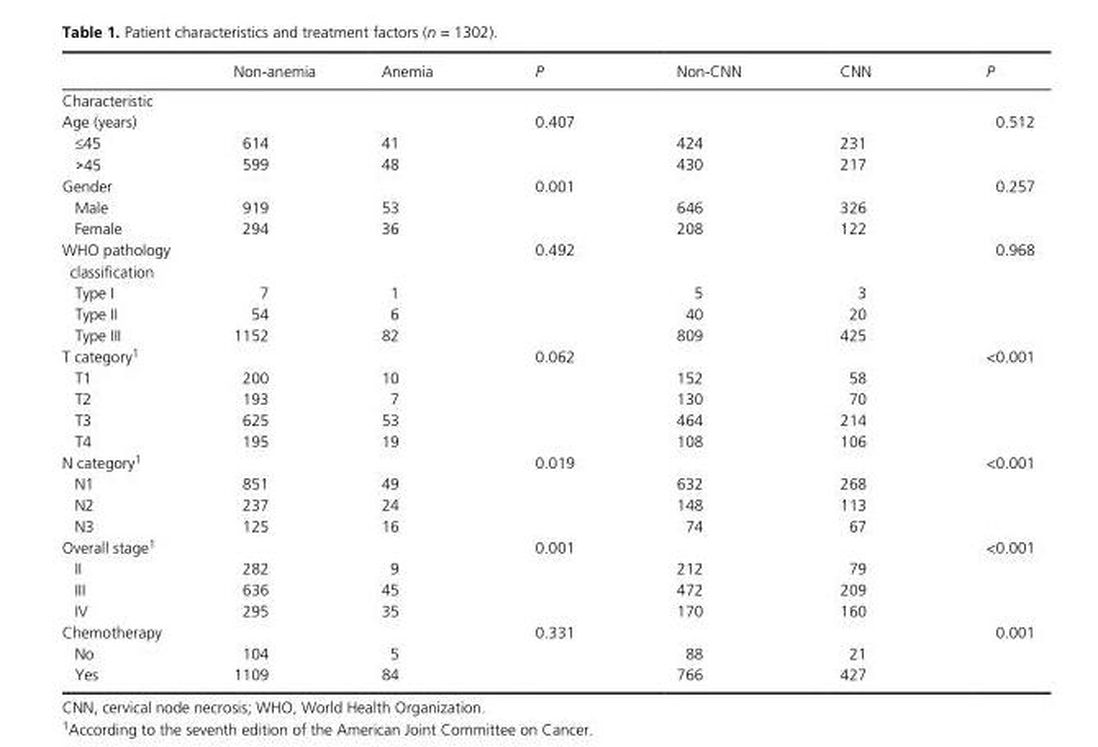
<table><thead><tr><td></td><td>Non- anemia</td><td>Anemia</td><td>P</td><td>Non- CNN</td><td>CNN</td><td>P</td></tr></thead><tbody><tr><td colspan="7">Characteristic</td></tr><tr><td>Age (years)</td><td></td><td></td><td>0.407</td><td></td><td></td><td>0.512</td></tr><tr><td>≤45</td><td>614</td><td>41</td><td></td><td>424</td><td>231</td><td></td></tr><tr><td>˃45</td><td>599</td><td>48</td><td></td><td>430</td><td>217</td><td></td></tr><tr><td>Gender</td><td></td><td></td><td>0.001</td><td></td><td></td><td>0.257</td></tr><tr><td>Male</td><td>919</td><td>53</td><td></td><td>646</td><td>326</td><td></td></tr><tr><td>Female</td><td>294</td><td>36</td><td></td><td>208</td><td>122</td><td></td></tr><tr><td>WHO pathology classification</td><td></td><td></td><td>0.492</td><td></td><td></td><td>0.968</td></tr><tr><td>Type I</td><td>7</td><td>1</td><td></td><td>5</td><td>3</td><td></td></tr><tr><td>Type II</td><td>54</td><td>6</td><td></td><td>40</td><td>20</td><td></td></tr><tr><td>Type III</td><td>1152</td><td>82</td><td></td><td>809</td><td>425</td><td></td></tr><tr><td>T category1</td><td></td><td></td><td>0.062</td><td></td><td></td><td>&lt;0.001</td></tr><tr><td>T1</td><td>200</td><td>10</td><td></td><td>152</td><td>58</td><td></td></tr><tr><td>T2</td><td>193</td><td>7</td><td></td><td>130</td><td>70</td><td></td></tr><tr><td>T3</td><td>625</td><td>53</td><td></td><td>464</td><td>214</td><td></td></tr><tr><td>T4</td><td>195</td><td>19</td><td></td><td>108</td><td>106</td><td></td></tr><tr><td>N category1</td><td></td><td></td><td>0.019</td><td></td><td></td><td>&lt;0.001</td></tr><tr><td>N1</td><td>851</td><td>49</td><td></td><td>632</td><td>268</td><td></td></tr><tr><td>N2</td><td>237</td><td>24</td><td></td><td>148</td><td>113</td><td></td></tr><tr><td>N3</td><td>125</td><td>16</td><td></td><td>74</td><td>67</td><td></td></tr><tr><td>Overall stage1</td><td></td><td></td><td>0.001</td><td></td><td></td><td>&lt;0.001</td></tr><tr><td>II</td><td>282</td><td>9</td><td></td><td>212</td><td>79</td><td></td></tr><tr><td>III</td><td>636</td><td>45</td><td></td><td>472</td><td>209</td><td></td></tr><tr><td>IV</td><td>295</td><td>35</td><td></td><td>170</td><td>160</td><td></td></tr><tr><td>Chemotherapy</td><td></td><td></td><td>0.331</td><td></td><td></td><td>0.001</td></tr><tr><td>No</td><td>104</td><td>5</td><td></td><td>88</td><td>21</td><td></td></tr><tr><td>Yes</td><td>1109</td><td>84</td><td></td><td>766</td><td>427</td><td></td></tr></tbody></table>